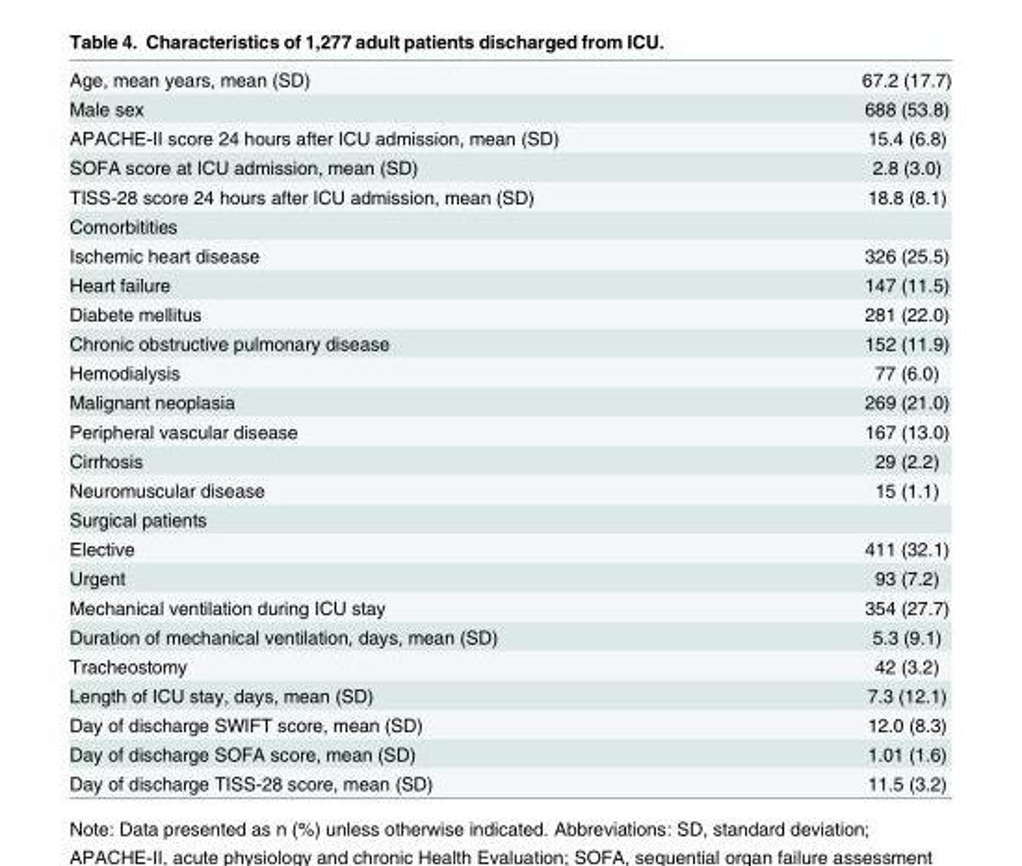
<table><tbody><tr><td>Age, mean years, mean (SD)</td><td>67.2 (17.7)</td></tr><tr><td>Male sex</td><td>688 (53.8)</td></tr><tr><td>APACHE-II score 24 hours after ICU admission, mean (SD)</td><td>15.4 (6.8)</td></tr><tr><td>SOFA score at ICU admission, mean (SD)</td><td>2.8 (3.0)</td></tr><tr><td>TISS-28 score 24 hours after ICU admission, mean (SD)</td><td>18.8 (8.1)</td></tr><tr><td colspan="2">Comorbitities</td></tr><tr><td>Ischemic heart disease</td><td>326 (25.5)</td></tr><tr><td>Heart failure</td><td>147 (11.5)</td></tr><tr><td>Diabete mellitus</td><td>281 (22.0)</td></tr><tr><td>Chronic obstructive pulmonary disease</td><td>152 (11.9)</td></tr><tr><td>Hemodialysis</td><td>77 (6.0)</td></tr><tr><td>Malignant neoplasia</td><td>269 (21.0)</td></tr><tr><td>Peripheral vascular disease</td><td>167 (13.0)</td></tr><tr><td>Cirrhosis</td><td>29 (2.2)</td></tr><tr><td>Neuromuscular disease</td><td>15 (1.1)</td></tr><tr><td colspan="2">Surgical patients</td></tr><tr><td>Elective</td><td>411 (32.1)</td></tr><tr><td>Urgent</td><td>93 (7.2)</td></tr><tr><td>Mechanical ventilation during ICU stay</td><td>354 (27.7)</td></tr><tr><td>Duration of mechanical ventilation, days, mean (SD)</td><td>5.3 (9.1)</td></tr><tr><td>Tracheostomy</td><td>42 (3.2)</td></tr><tr><td>Length of ICU stay, days, mean (SD)</td><td>7.3 (12.1)</td></tr><tr><td>Day of discharge SWIFT score, mean (SD)</td><td>12.0 (8.3)</td></tr><tr><td>Day of discharge SOFA score, mean (SD)</td><td>1.01 (1.6)</td></tr><tr><td>Day of discharge TISS-28 score, mean (SD)</td><td>11.5 (3.2)</td></tr></tbody></table>